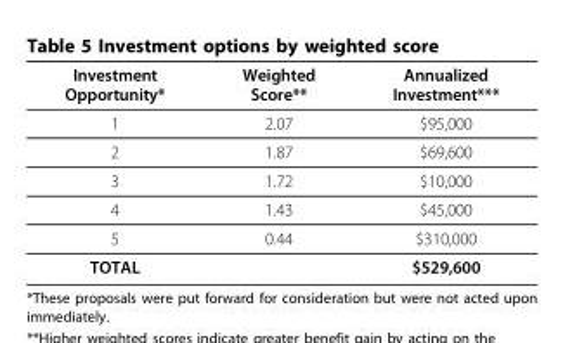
<table><thead><tr><td>Investment Opportunity*</td><td>Weighted Score**</td><td>Annualized Investment***</td></tr></thead><tbody><tr><td>1</td><td>2.07</td><td>$95,000</td></tr><tr><td>2</td><td>1.87</td><td>$69,600</td></tr><tr><td>3</td><td>1.72</td><td>$10,000</td></tr><tr><td>4</td><td>1.43</td><td>$45,000</td></tr><tr><td>5</td><td>0.44</td><td>$310,000</td></tr><tr><td>TOTAL</td><td></td><td>$529,600</td></tr></tbody></table>